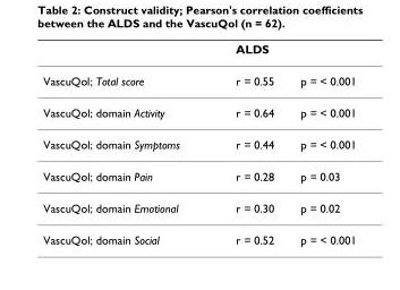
<table><thead><tr><td></td><td>ALDS</td><td></td></tr></thead><tbody><tr><td>VascuQol; Total score</td><td>r = 0.55</td><td>p = &lt; 0.001</td></tr><tr><td>VascuQol; domain Activity</td><td>r = 0.64</td><td>p = &lt; 0.001</td></tr><tr><td>VascuQol; domain Symptoms</td><td>r = 0.44</td><td>p = &lt; 0.001</td></tr><tr><td>VascuQol; domain Pain</td><td>r = 0.28</td><td>p = 0.03</td></tr><tr><td>VascuQol; domain Emotional</td><td>r = 0.30</td><td>p = 0.02</td></tr><tr><td>VascuQol; domain Social</td><td>r = 0.52</td><td>p = &lt; 0.001</td></tr></tbody></table>